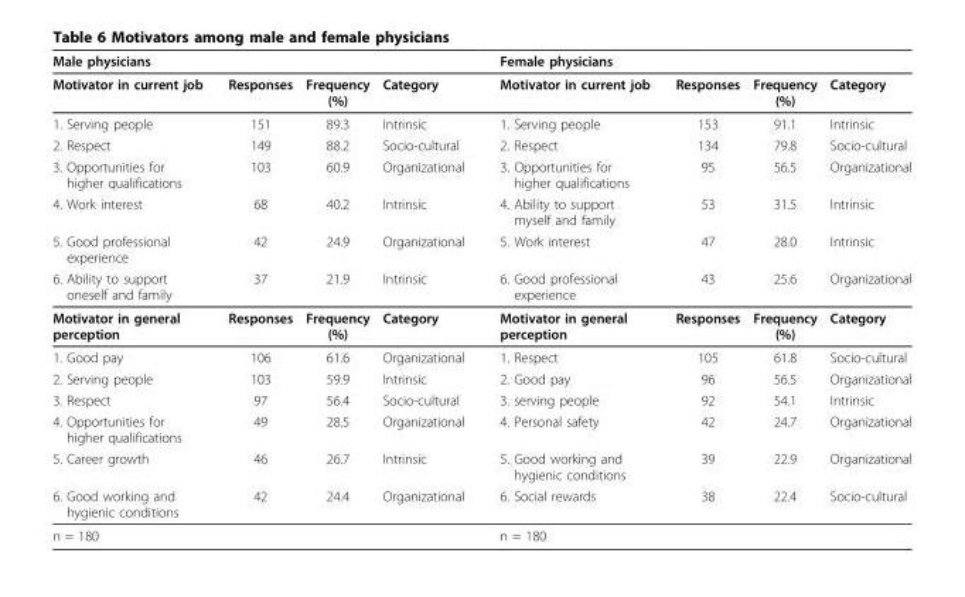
<table><thead><tr><td colspan="4">Male physicians</td><td colspan="4">Female physicians</td></tr><tr><td>Motivator in current job</td><td>Responses</td><td>Frequency (%)</td><td>Category</td><td>Motivator in current job</td><td>Responses</td><td>Frequency (%)</td><td>Category</td></tr></thead><tbody><tr><td>1. Serving people</td><td>151</td><td>89.3</td><td>Intrinsic</td><td>1. Serving people</td><td>153</td><td>91.1</td><td>Intrinsic</td></tr><tr><td>2. Respect</td><td>149</td><td>88.2</td><td>Socio-cultural</td><td>2. Respect</td><td>134</td><td>79.8</td><td>Socio-cultural</td></tr><tr><td>3. Opportunities for higher qualifications</td><td>103</td><td>60.9</td><td>Organizational</td><td>3. Opportunities for higher qualifications</td><td>95</td><td>56.5</td><td>Organizational</td></tr><tr><td>4. Work interest</td><td>68</td><td>40.2</td><td>Intrinsic</td><td>4. Ability to support myself and family</td><td>53</td><td>31.5</td><td>Intrinsic</td></tr><tr><td>5. Good professional experience</td><td>42</td><td>24.9</td><td>Organizational</td><td>5. Work interest</td><td>47</td><td>28.0</td><td>Intrinsic</td></tr><tr><td>6. Ability to support oneself and family</td><td>37</td><td>21.9</td><td>Intrinsic</td><td>6. Good professional experience</td><td>43</td><td>25.6</td><td>Organizational</td></tr><tr><td>Motivator in general perception</td><td>Responses</td><td>Frequency (%)</td><td>Category</td><td>Motivator in general perception</td><td>Responses</td><td>Frequency (%)</td><td>Category</td></tr><tr><td>1. Good pay</td><td>106</td><td>61.6</td><td>Organizational</td><td>1. Respect</td><td>105</td><td>61.8</td><td>Socio-cultural</td></tr><tr><td>2. Serving people</td><td>103</td><td>59.9</td><td>Intrinsic</td><td>2. Good pay</td><td>96</td><td>56.5</td><td>Organizational</td></tr><tr><td>3. Respect</td><td>97</td><td>56.4</td><td>Socio-cultural</td><td>3. serving people</td><td>92</td><td>54.1</td><td>Intrinsic</td></tr><tr><td>4. Opportunities for higher qualifications</td><td>49</td><td>28.5</td><td>Organizational</td><td>4. Personal safety</td><td>42</td><td>24.7</td><td>Organizational</td></tr><tr><td>5. Career growth</td><td>46</td><td>26.7</td><td>Intrinsic</td><td>5. Good working and hygienic conditions</td><td>39</td><td>22.9</td><td>Organizational</td></tr><tr><td>6. Good working and hygienic conditions</td><td>42</td><td>24.4</td><td>Organizational</td><td>6. Social rewards</td><td>38</td><td>22.4</td><td>Socio-cultural</td></tr><tr><td>n = 180</td><td></td><td></td><td></td><td>n = 180</td><td></td><td></td><td></td></tr></tbody></table>